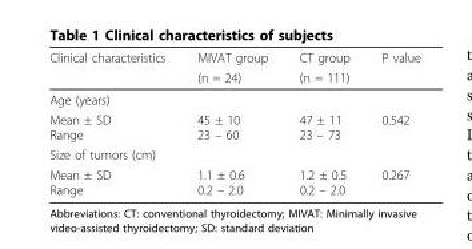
<table><thead><tr><td rowspan="2">Clinical characteristics</td><td rowspan="2">MIVAT group (n = 24)</td><td rowspan="2">CT group (n = 111)</td><td rowspan="2">P value</td></tr><tr></tr></thead><tbody><tr><td colspan="4">Age (years)</td></tr><tr><td>Mean ± SD Range</td><td>45 ± 10 23 – 60</td><td>47 ± 11 23 – 73</td><td>0.542</td></tr><tr><td colspan="4">Size of tumors (cm)</td></tr><tr><td>Mean ± SD Range</td><td>1.1 ± 0.6 0.2 – 2.0</td><td>1.2 ± 0.5 0.2 – 2.0</td><td>0.267</td></tr></tbody></table>